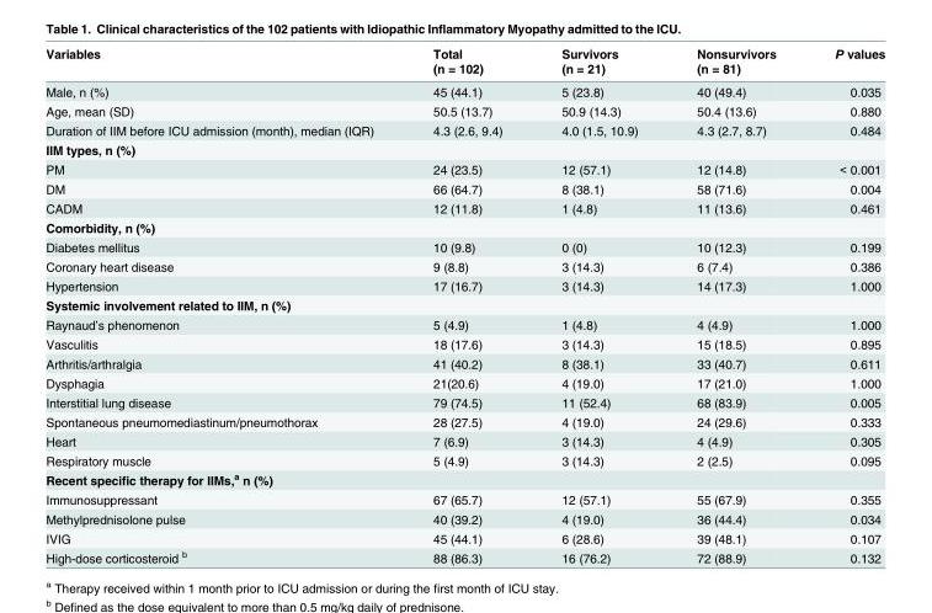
<table><thead><tr><td rowspan="2">Variables</td><td rowspan="2">Total (n = 102)</td><td rowspan="2">Survivors (n = 21)</td><td rowspan="2">Nonsurvivors (n = 81)</td><td rowspan="2">P values</td></tr><tr></tr></thead><tbody><tr><td>Male, n (%)</td><td>45 (44.1)</td><td>5 (23.8)</td><td>40 (49.4)</td><td>0.035</td></tr><tr><td>Age, mean (SD)</td><td>50.5 (13.7)</td><td>50.9 (14.3)</td><td>50.4 (13.6)</td><td>0.880</td></tr><tr><td>Duration of IIM before ICU admission (month), median (IQR)</td><td>4.3 (2.6, 9.4)</td><td>4.0 (1.5, 10.9)</td><td>4.3 (2.7, 8.7)</td><td>0.484</td></tr><tr><td colspan="5">IIM types, n (%)</td></tr><tr><td>PM</td><td>24 (23.5)</td><td>12 (57.1)</td><td>12 (14.8)</td><td>&lt; 0.001</td></tr><tr><td>DM</td><td>66 (64.7)</td><td>8 (38.1)</td><td>58 (71.6)</td><td>0.004</td></tr><tr><td>CADM</td><td>12 (11.8)</td><td>1 (4.8)</td><td>11 (13.6)</td><td>0.461</td></tr><tr><td colspan="5">Comorbidity, n (%)</td></tr><tr><td>Diabetes mellitus</td><td>10 (9.8)</td><td>0 (0)</td><td>10 (12.3)</td><td>0.199</td></tr><tr><td>Coronary heart disease</td><td>9 (8.8)</td><td>3 (14.3)</td><td>6 (7.4)</td><td>0.386</td></tr><tr><td>Hypertension</td><td>17 (16.7)</td><td>3 (14.3)</td><td>14 (17.3)</td><td>1.000</td></tr><tr><td colspan="5">Systemic involvement related to IIM, n (%)</td></tr><tr><td>Raynaud’s phenomenon</td><td>5 (4.9)</td><td>1 (4.8)</td><td>4 (4.9)</td><td>1.000</td></tr><tr><td>Vasculitis</td><td>18 (17.6)</td><td>3 (14.3)</td><td>15 (18.5)</td><td>0.895</td></tr><tr><td>Arthritis/arthralgia</td><td>41 (40.2)</td><td>8 (38.1)</td><td>33 (40.7)</td><td>0.611</td></tr><tr><td>Dysphagia</td><td>21(20.6)</td><td>4 (19.0)</td><td>17 (21.0)</td><td>1.000</td></tr><tr><td>Interstitial lung disease</td><td>79 (74.5)</td><td>11 (52.4)</td><td>68 (83.9)</td><td>0.005</td></tr><tr><td>Spontaneous pneumomediastinum/pneumothorax</td><td>28 (27.5)</td><td>4 (19.0)</td><td>24 (29.6)</td><td>0.333</td></tr><tr><td>Heart</td><td>7 (6.9)</td><td>3 (14.3)</td><td>4 (4.9)</td><td>0.305</td></tr><tr><td>Respiratory muscle</td><td>5 (4.9)</td><td>3 (14.3)</td><td>2 (2.5)</td><td>0.095</td></tr><tr><td colspan="5">Recent specific therapy for IIMs,<sup>a</sup> n (%)</td></tr><tr><td>Immunosuppressant</td><td>67 (65.7)</td><td>12 (57.1)</td><td>55 (67.9)</td><td>0.355</td></tr><tr><td>Methylprednisolone pulse</td><td>40 (39.2)</td><td>4 (19.0)</td><td>36 (44.4)</td><td>0.034</td></tr><tr><td>IVIG</td><td>45 (44.1)</td><td>6 (28.6)</td><td>39 (48.1)</td><td>0.107</td></tr><tr><td>High-dose corticosteroid <sup>b</sup></td><td>88 (86.3)</td><td>16 (76.2)</td><td>72 (88.9)</td><td>0.132</td></tr></tbody></table>